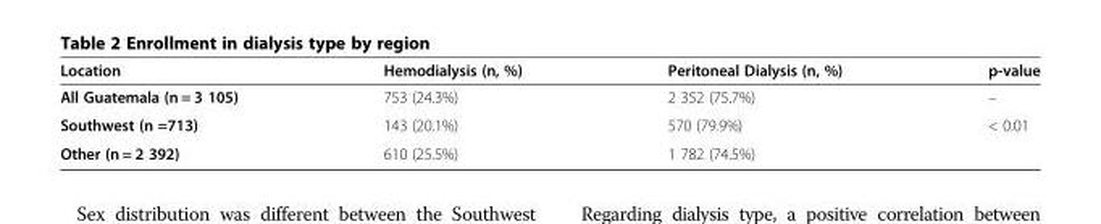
<table><thead><tr><td>Location</td><td>Hemodialysis (n, %)</td><td>Peritoneal Dialysis (n, %)</td><td>p-value</td></tr></thead><tbody><tr><td>All Guatemala (n = 3 105)</td><td>753 (24.3%)</td><td>2 352 (75.7%)</td><td>–</td></tr><tr><td>Southwest (n =713)</td><td>143 (20.1%)</td><td>570 (79.9%)</td><td>&lt; 0.01</td></tr><tr><td>Other (n = 2 392)</td><td>610 (25.5%)</td><td>1 782 (74.5%)</td><td></td></tr></tbody></table>